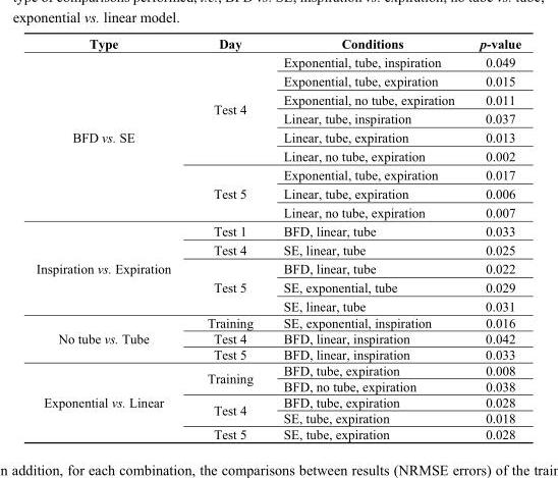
<table><thead><tr><td>Type</td><td>Day</td><td>Conditions</td><td>p-value</td></tr></thead><tbody><tr><td rowspan="9">BFD vs. SE</td><td rowspan="6">Test 4</td><td>Exponential, tube, inspiration</td><td>0.049</td></tr><tr><td>Exponential, tube, expiration</td><td>0.015</td></tr><tr><td>Exponential, no tube, expiration</td><td>0.011</td></tr><tr><td>Linear, tube, inspiration</td><td>0.037</td></tr><tr><td>Linear, tube, expiration</td><td>0.013</td></tr><tr><td>Linear, no tube, expiration</td><td>0.002</td></tr><tr><td rowspan="3">Test 5</td><td>Exponential, tube, expiration</td><td>0.017</td></tr><tr><td>Linear, tube, expiration</td><td>0.006</td></tr><tr><td>Linear, no tube, expiration</td><td>0.007</td></tr><tr><td rowspan="5">Inspiration vs. Expiration</td><td>Test 1</td><td>BFD, linear, tube</td><td>0.033</td></tr><tr><td>Test 4</td><td>SE, linear, tube</td><td>0.025</td></tr><tr><td rowspan="3">Test 5</td><td>BFD, linear, tube</td><td>0.022</td></tr><tr><td>SE, exponential, tube</td><td>0.029</td></tr><tr><td>SE, linear, tube</td><td>0.031</td></tr><tr><td rowspan="3">No tube vs. Tube</td><td>Training</td><td>SE, exponential, inspiration</td><td>0.016</td></tr><tr><td>Test 4</td><td>BFD, linear, inspiration</td><td>0.042</td></tr><tr><td>Test 5</td><td>BFD, linear, inspiration</td><td>0.033</td></tr><tr><td rowspan="5">Exponential vs. Linear</td><td rowspan="2">Training</td><td>BFD, tube, expiration</td><td>0.008</td></tr><tr><td>BFD, no tube, expiration</td><td>0.038</td></tr><tr><td rowspan="2">Test 4</td><td>BFD, tube, expiration</td><td>0.028</td></tr><tr><td>SE, tube, expiration</td><td>0.018</td></tr><tr><td>Test 5</td><td>SE, tube, expiration</td><td>0.028</td></tr></tbody></table>